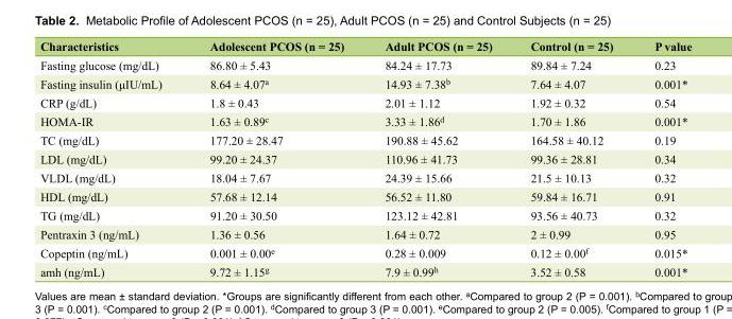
<table><thead><tr><td>Characteristics</td><td>Adolescent PCOS (n = 25)</td><td>Adult PCOS (n = 25)</td><td>Control (n = 25)</td><td>P value</td></tr></thead><tbody><tr><td>Fasting glucose (mg/dL)</td><td>86.80 ± 5.43</td><td>84.24 ± 17.73</td><td>89.84 ± 7.24</td><td>0.23</td></tr><tr><td>Fasting insulin (μIU/mL)</td><td>8.64 ± 4.07<sup>a</sup></td><td>14.93 ± 7.38<sup>b</sup></td><td>7.64 ± 4.07</td><td>0.001*</td></tr><tr><td>CRP (g/dL)</td><td>1.8 ± 0.43</td><td>2.01 ± 1.12</td><td>1.92 ± 0.32</td><td>0.54</td></tr><tr><td>HOMA-IR</td><td>1.63 ± 0.89<sup>c</sup></td><td>3.33 ± 1.86<sup>d</sup></td><td>1.70 ± 1.86</td><td>0.001*</td></tr><tr><td>TC (mg/dL)</td><td>177.20 ± 28.47</td><td>190.88 ± 45.62</td><td>164.58 ± 40.12</td><td>0.19</td></tr><tr><td>LDL (mg/dL)</td><td>99.20 ± 24.37</td><td>110.96 ± 41.73</td><td>99.36 ± 28.81</td><td>0.34</td></tr><tr><td>VLDL (mg/dL)</td><td>18.04 ± 7.67</td><td>24.39 ± 15.66</td><td>21.5 ± 10.13</td><td>0.32</td></tr><tr><td>HDL (mg/dL)</td><td>57.68 ± 12.14</td><td>56.52 ± 11.80</td><td>59.84 ± 16.71</td><td>0.91</td></tr><tr><td>TG (mg/dL)</td><td>91.20 ± 30.50</td><td>123.12 ± 42.81</td><td>93.56 ± 40.73</td><td>0.32</td></tr><tr><td>Pentraxin 3 (ng/mL)</td><td>1.36 ± 0.56</td><td>1.64 ± 0.72</td><td>2 ± 0.99</td><td>0.95</td></tr><tr><td>Copeptin (ng/mL)</td><td>0.001 ± 0.00<sup>e</sup></td><td>0.28 ± 0.009</td><td>0.12 ± 0.00<sup>f</sup></td><td>0.015*</td></tr><tr><td>amh (ng/mL)</td><td>9.72 ± 1.15<sup>g</sup></td><td>7.9 ± 0.99<sup>h</sup></td><td>3.52 ± 0.58</td><td>0.001*</td></tr></tbody></table>